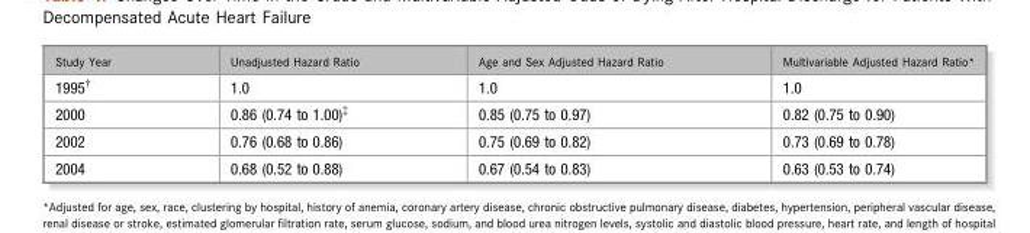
<table><thead><tr><td>Study Year</td><td>Unadjusted Hazard Ratio</td><td>Age and Sex Adjusted Hazard Ratio</td><td>Multivariable Adjusted Hazard Ratio*</td></tr></thead><tbody><tr><td>1995†</td><td>1.0</td><td>1.0</td><td>1.0</td></tr><tr><td>2000</td><td>0.86 (0.74 to 1.00)‡</td><td>0.85 (0.75 to 0.97)</td><td>0.82 (0.75 to 0.90)</td></tr><tr><td>2002</td><td>0.76 (0.68 to 0.86)</td><td>0.75 (0.69 to 0.82)</td><td>0.73 (0.69 to 0.78)</td></tr><tr><td>2004</td><td>0.68 (0.52 to 0.88)</td><td>0.67 (0.54 to 0.83)</td><td>0.63 (0.53 to 0.74)</td></tr></tbody></table>